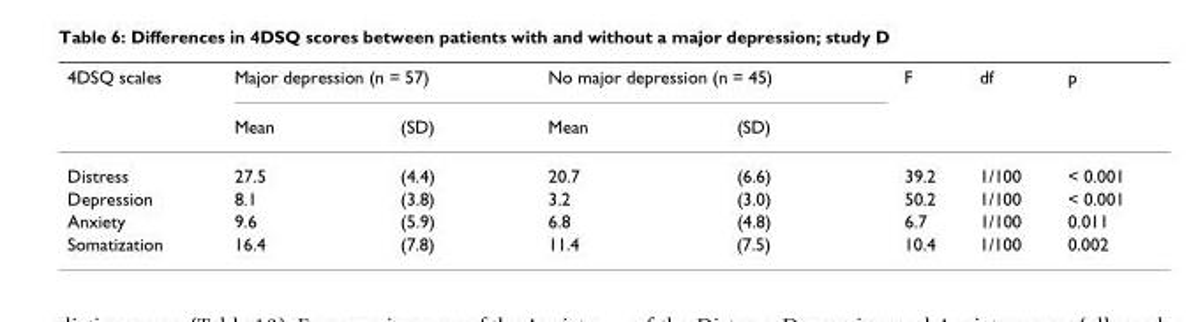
<table><thead><tr><td rowspan="2">4DSQ scales</td><td colspan="2">Major depression (n = 57)</td><td colspan="2">No major depression (n = 45)</td><td rowspan="2">F</td><td rowspan="2">df</td><td rowspan="2">p</td></tr><tr><td>Mean</td><td>(SD)</td><td>Mean</td><td>(SD)</td></tr></thead><tbody><tr><td>Distress</td><td>27.5</td><td>(4.4)</td><td>20.7</td><td>(6.6)</td><td>39.2</td><td>1/100</td><td>&lt; 0.001</td></tr><tr><td>Depression</td><td>8.1</td><td>(3.8)</td><td>3.2</td><td>(3.0)</td><td>50.2</td><td>1/100</td><td>&lt; 0.001</td></tr><tr><td>Anxiety</td><td>9.6</td><td>(5.9)</td><td>6.8</td><td>(4.8)</td><td>6.7</td><td>1/100</td><td>0.011</td></tr><tr><td>Somatization</td><td>16.4</td><td>(7.8)</td><td>11.4</td><td>(7.5)</td><td>10.4</td><td>1/100</td><td>0.002</td></tr></tbody></table>